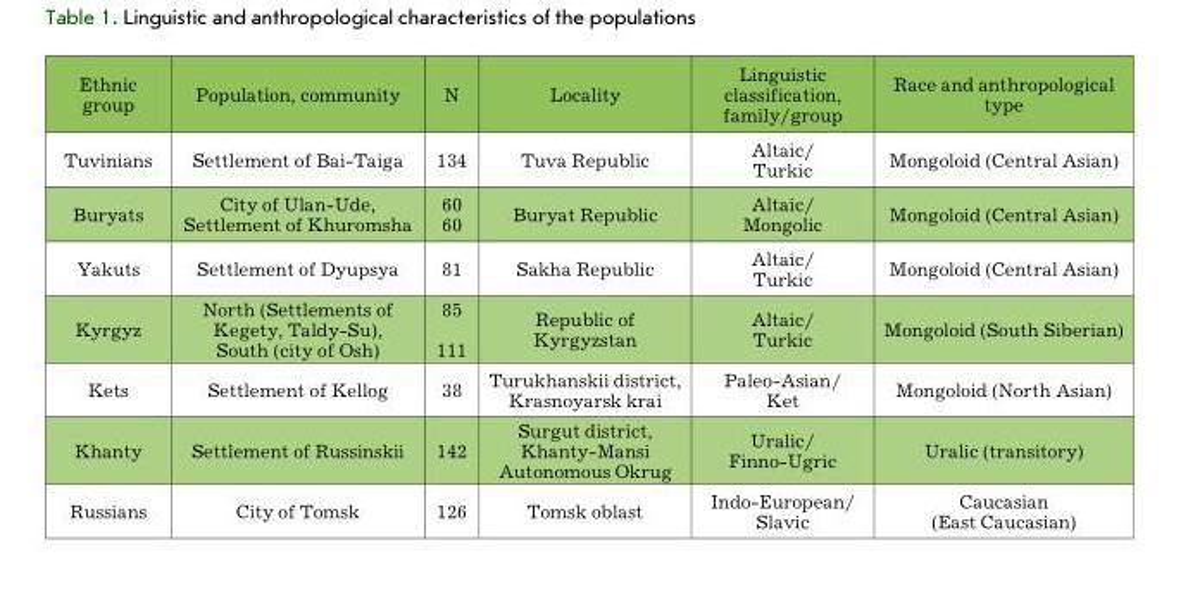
<table><thead><tr><td>ethnic group</td><td>Population, community</td><td>n</td><td>Locality</td><td>Linguistic classification, family/group</td><td>race and anthropological type</td></tr></thead><tbody><tr><td>tuvinians</td><td>Settlement of Bai-taiga</td><td>134</td><td>tuva republic</td><td>Altaic/ turkic</td><td>Mongoloid (central Asian)</td></tr><tr><td>Buryats</td><td>city of ulan-ude, Settlement of Khuromsha</td><td>60 60</td><td>Buryat republic</td><td>Altaic/ Mongolic</td><td>Mongoloid (central Asian)</td></tr><tr><td>Yakuts</td><td>Settlement of Dyupsya</td><td>81</td><td>Sakha republic</td><td>Altaic/ turkic</td><td>Mongoloid (central Asian)</td></tr><tr><td>Kyrgyz</td><td>north (Settlements of Kegety, taldy-Su), South (city of Osh)</td><td>85 111</td><td>republic of Kyrgyzstan</td><td>Altaic/ turkic</td><td>Mongoloid (South Siberian)</td></tr><tr><td>Kets</td><td>Settlement of Kellog</td><td>38</td><td>turukhanskii district, Krasnoyarsk krai</td><td>Paleo-Asian/ Ket</td><td>Mongoloid (north Asian)</td></tr><tr><td>Khanty</td><td>Settlement of russinskii</td><td>142</td><td>Surgut district, Khanty-Mansi Autonomous Okrug</td><td>uralic/ Finno-ugric</td><td>uralic (transitory)</td></tr><tr><td>russians</td><td>city of tomsk</td><td>126</td><td>tomsk oblast</td><td>Indo-european/ Slavic</td><td>caucasian (east caucasian)</td></tr></tbody></table>